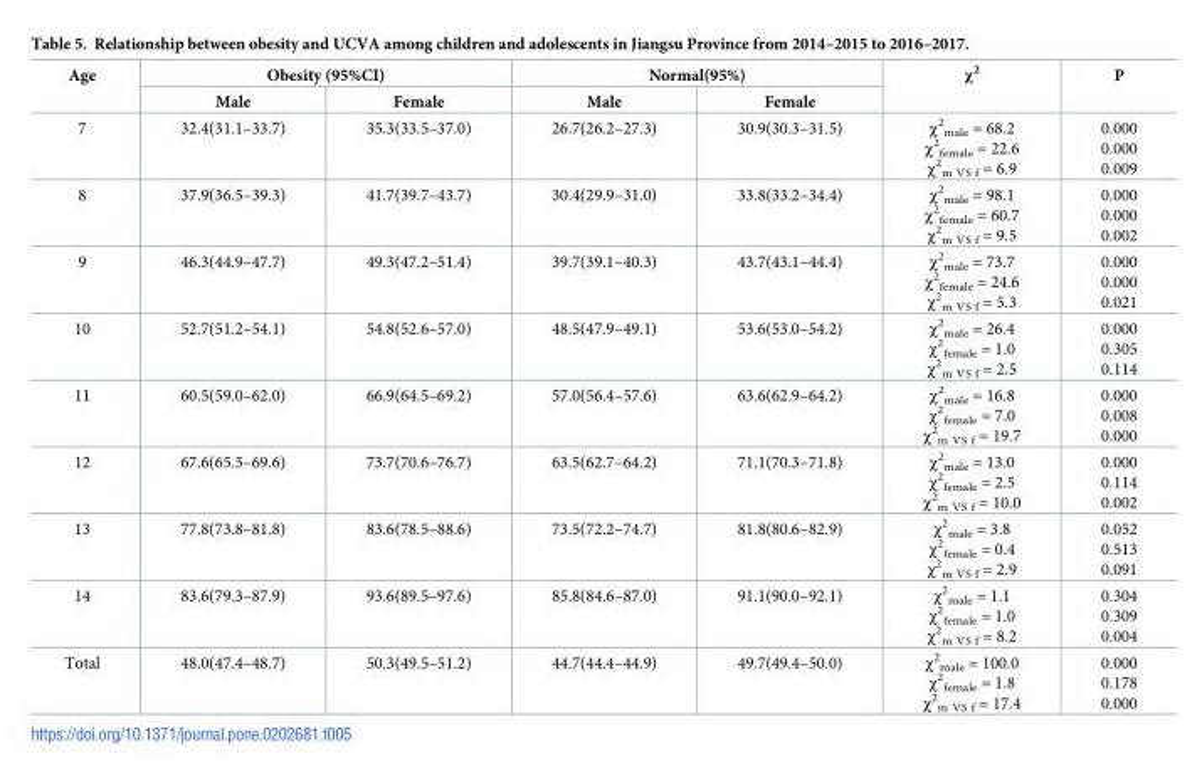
<table><thead><tr><td rowspan="2">Age</td><td colspan="2">Obesity (95%CI)</td><td colspan="2">Normal(95%)</td><td rowspan="2">χ<sup>2</sup></td><td rowspan="2">P</td></tr><tr><td>Male</td><td>Female</td><td>Male</td><td>Female</td></tr></thead><tbody><tr><td>7</td><td>32.4(31.1–33.7)</td><td>35.3(33.5–37.0)</td><td>26.7(26.2–27.3)</td><td>30.9(30.3–31.5)</td><td>χ<sup>2</sup> <sub>male</sub> = 68.2 χ<sup>2</sup> <sub>female</sub> = 22.6 χ<sup>2</sup> <sub>m VS f</sub> = 6.9</td><td>0.000 0.000 0.009</td></tr><tr><td>8</td><td>37.9(36.5–39.3)</td><td>41.7(39.7–43.7)</td><td>30.4(29.9–31.0)</td><td>33.8(33.2–34.4)</td><td>χ<sup>2</sup> <sub>male</sub> = 98.1 χ<sup>2</sup> <sub>female</sub> = 60.7 χ<sup>2</sup> <sub>m VS f</sub> = 9.5</td><td>0.000 0.000 0.002</td></tr><tr><td>9</td><td>46.3(44.9–47.7)</td><td>49.3(47.2–51.4)</td><td>39.7(39.1–40.3)</td><td>43.7(43.1–44.4)</td><td>χ<sup>2</sup> <sub>male</sub> = 73.7 χ<sup>2</sup> <sub>female</sub> = 24.6 χ<sup>2</sup> <sub>m VS f</sub> = 5.3</td><td>0.000 0.000 0.021</td></tr><tr><td>10</td><td>52.7(51.2–54.1)</td><td>54.8(52.6–57.0)</td><td>48.5(47.9–49.1)</td><td>53.6(53.0–54.2)</td><td>χ<sup>2</sup> <sub>male</sub> = 26.4 χ<sup>2</sup> <sub>female</sub> = 1.0 χ<sup>2</sup> <sub>m VS f</sub> = 2.5</td><td>0.000 0.305 0.114</td></tr><tr><td>11</td><td>60.5(59.0–62.0)</td><td>66.9(64.5–69.2)</td><td>57.0(56.4–57.6)</td><td>63.6(62.9–64.2)</td><td>χ<sup>2</sup> <sub>male</sub> = 16.8 χ<sup>2</sup> <sub>female</sub> = 7.0 χ<sup>2</sup> <sub>m VS f</sub> = 19.7</td><td>0.000 0.008 0.000</td></tr><tr><td>12</td><td>67.6(65.5–69.6)</td><td>73.7(70.6–76.7)</td><td>63.5(62.7–64.2)</td><td>71.1(70.3–71.8)</td><td>χ<sup>2</sup> <sub>male</sub> = 13.0 χ<sup>2</sup> <sub>female</sub> = 2.5 χ<sup>2</sup> <sub>m VS f</sub> = 10.0</td><td>0.000 0.114 0.002</td></tr><tr><td>13</td><td>77.8(73.8–81.8)</td><td>83.6(78.5–88.6)</td><td>73.5(72.2–74.7)</td><td>81.8(80.6–82.9)</td><td>χ<sup>2</sup> <sub>male</sub> = 3.8 χ<sup>2</sup> <sub>female</sub> = 0.4 χ<sup>2</sup> <sub>m VS f</sub> = 2.9</td><td>0.052 0.513 0.091</td></tr><tr><td>14</td><td>83.6(79.3–87.9)</td><td>93.6(89.5–97.6)</td><td>85.8(84.6–87.0)</td><td>91.1(90.0–92.1)</td><td>χ<sup>2</sup> <sub>male</sub> = 1.1 χ<sup>2</sup> <sub>female</sub> = 1.0 χ<sup>2</sup> <sub>m VS f</sub> = 8.2</td><td>0.304 0.309 0.004</td></tr><tr><td>Total</td><td>48.0(47.4–48.7)</td><td>50.3(49.5–51.2)</td><td>44.7(44.4–44.9)</td><td>49.7(49.4–50.0)</td><td>χ<sup>2</sup> <sub>male</sub> = 100.0 χ<sup>2</sup> <sub>female</sub> = 1.8 χ<sup>2</sup> <sub>m VS f</sub> = 17.4</td><td>0.000 0.178 0.000</td></tr></tbody></table>